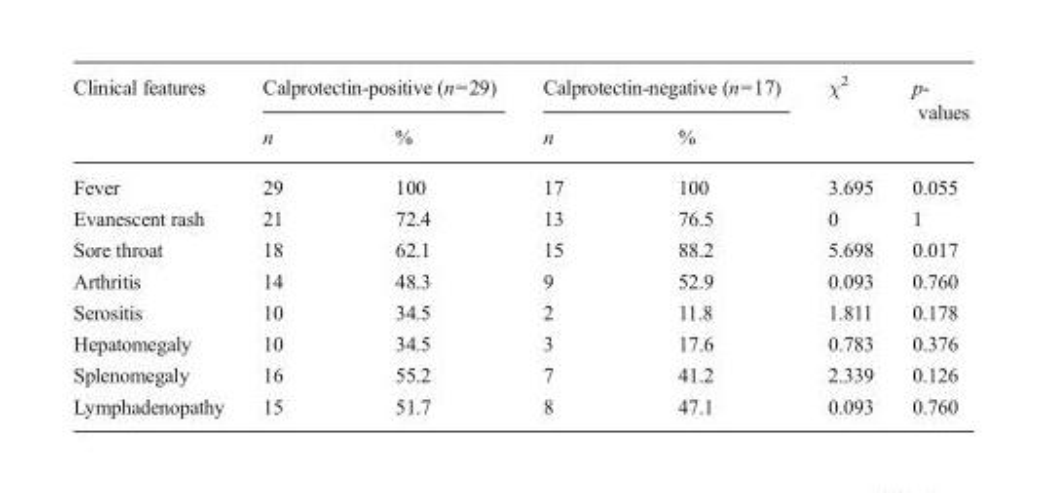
<table><thead><tr><td rowspan="2">Clinical features</td><td colspan="2">Calprotectin-positive (n=29)</td><td colspan="2">Calprotectin-negative (n=17)</td><td rowspan="2">χ<sup>2</sup></td><td rowspan="2">p- values</td></tr><tr><td>n</td><td>%</td><td>n</td><td>%</td></tr></thead><tbody><tr><td>Fever</td><td>29</td><td>100</td><td>17</td><td>100</td><td>3.695</td><td>0.055</td></tr><tr><td>Evanescent rash</td><td>21</td><td>72.4</td><td>13</td><td>76.5</td><td>0</td><td>1</td></tr><tr><td>Sore throat</td><td>18</td><td>62.1</td><td>15</td><td>88.2</td><td>5.698</td><td>0.017</td></tr><tr><td>Arthritis</td><td>14</td><td>48.3</td><td>9</td><td>52.9</td><td>0.093</td><td>0.760</td></tr><tr><td>Serositis</td><td>10</td><td>34.5</td><td>2</td><td>11.8</td><td>1.811</td><td>0.178</td></tr><tr><td>Hepatomegaly</td><td>10</td><td>34.5</td><td>3</td><td>17.6</td><td>0.783</td><td>0.376</td></tr><tr><td>Splenomegaly</td><td>16</td><td>55.2</td><td>7</td><td>41.2</td><td>2.339</td><td>0.126</td></tr><tr><td>Lymphadenopathy</td><td>15</td><td>51.7</td><td>8</td><td>47.1</td><td>0.093</td><td>0.760</td></tr></tbody></table>